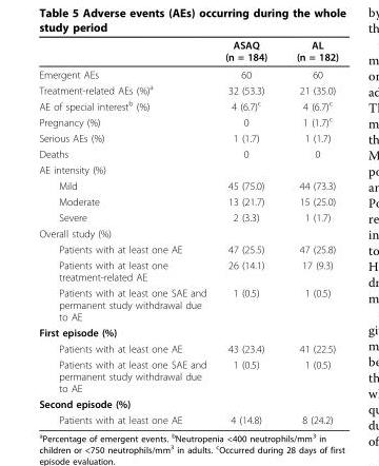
<table><thead><tr><td></td><td>ASAQ (n = 184)</td><td>AL (n = 182)</td></tr></thead><tbody><tr><td>Emergent AEs</td><td>60</td><td>60</td></tr><tr><td>Treatment-related AEs (%)<sup>a</sup></td><td>32 (53.3)</td><td>21 (35.0)</td></tr><tr><td>AE of special interest<sup>b</sup> (%)</td><td>4 (6.7)<sup>c</sup></td><td>4 (6.7)<sup>c</sup></td></tr><tr><td>Pregnancy (%)</td><td>0</td><td>1 (1.7)<sup>c</sup></td></tr><tr><td>Serious AEs (%)</td><td>1 (1.7)</td><td>1 (1.7)</td></tr><tr><td>Deaths</td><td>0</td><td>0</td></tr><tr><td colspan="3">AE intensity (%)</td></tr><tr><td>Mild</td><td>45 (75.0)</td><td>44 (73.3)</td></tr><tr><td>Moderate</td><td>13 (21.7)</td><td>15 (25.0)</td></tr><tr><td>Severe</td><td>2 (3.3)</td><td>1 (1.7)</td></tr><tr><td colspan="3">Overall study (%)</td></tr><tr><td>Patients with at least one AE</td><td>47 (25.5)</td><td>47 (25.8)</td></tr><tr><td>Patients with at least one treatment-related AE</td><td>26 (14.1)</td><td>17 (9.3)</td></tr><tr><td>Patients with at least one SAE and permanent study withdrawal due to AE</td><td>1 (0.5)</td><td>1 (0.5)</td></tr><tr><td colspan="3">First episode (%)</td></tr><tr><td>Patients with at least one AE</td><td>43 (23.4)</td><td>41 (22.5)</td></tr><tr><td>Patients with at least one SAE and permanent study withdrawal due to AE</td><td>1 (0.5)</td><td>1 (0.5)</td></tr><tr><td colspan="3">Second episode (%)</td></tr><tr><td>Patients with at least one AE</td><td>4 (14.8)</td><td>8 (24.2)</td></tr></tbody></table>